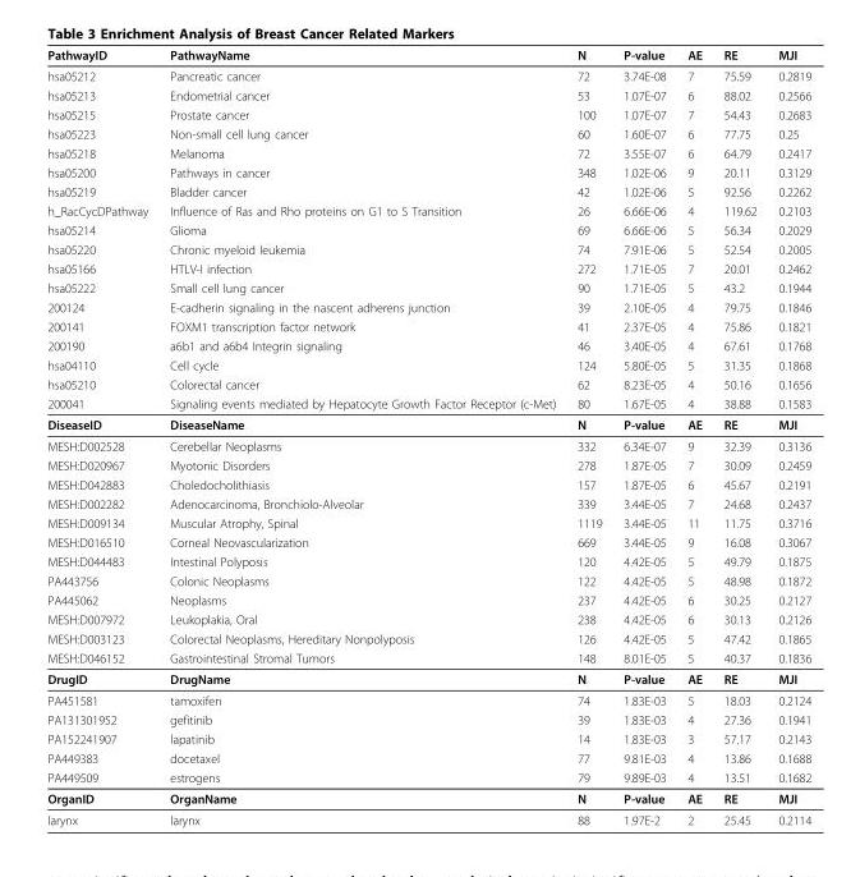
<table><thead><tr><td>PathwayID</td><td>PathwayName</td><td>N</td><td>P-value</td><td>AE</td><td>RE</td><td>MJI</td></tr></thead><tbody><tr><td>hsa05212</td><td>Pancreatic cancer</td><td>72</td><td>3.74E-08</td><td>7</td><td>75.59</td><td>0.2819</td></tr><tr><td>hsa05213</td><td>Endometrial cancer</td><td>53</td><td>1.07E-07</td><td>6</td><td>88.02</td><td>0.2566</td></tr><tr><td>hsa05215</td><td>Prostate cancer</td><td>100</td><td>1.07E-07</td><td>7</td><td>54.43</td><td>0.2683</td></tr><tr><td>hsa05223</td><td>Non-small cell lung cancer</td><td>60</td><td>1.60E-07</td><td>6</td><td>77.75</td><td>0.25</td></tr><tr><td>hsa05218</td><td>Melanoma</td><td>72</td><td>3.55E-07</td><td>6</td><td>64.79</td><td>0.2417</td></tr><tr><td>hsa05200</td><td>Pathways in cancer</td><td>348</td><td>1.02E-06</td><td>9</td><td>20.11</td><td>0.3129</td></tr><tr><td>hsa05219</td><td>Bladder cancer</td><td>42</td><td>1.02E-06</td><td>5</td><td>92.56</td><td>0.2262</td></tr><tr><td>h_RacCycDPathway</td><td>Influence of Ras and Rho proteins on G1 to S Transition</td><td>26</td><td>6.66E-06</td><td>4</td><td>119.62</td><td>0.2103</td></tr><tr><td>hsa05214</td><td>Glioma</td><td>69</td><td>6.66E-06</td><td>5</td><td>56.34</td><td>0.2029</td></tr><tr><td>hsa05220</td><td>Chronic myeloid leukemia</td><td>74</td><td>7.91E-06</td><td>5</td><td>52.54</td><td>0.2005</td></tr><tr><td>hsa05166</td><td>HTLV-I infection</td><td>272</td><td>1.71E-05</td><td>7</td><td>20.01</td><td>0.2462</td></tr><tr><td>hsa05222</td><td>Small cell lung cancer</td><td>90</td><td>1.71E-05</td><td>5</td><td>43.2</td><td>0.1944</td></tr><tr><td>200124</td><td>E-cadherin signaling in the nascent adherens junction</td><td>39</td><td>2.10E-05</td><td>4</td><td>79.75</td><td>0.1846</td></tr><tr><td>200141</td><td>FOXM1 transcription factor network</td><td>41</td><td>2.37E-05</td><td>4</td><td>75.86</td><td>0.1821</td></tr><tr><td>200190</td><td>a6b1 and a6b4 Integrin signaling</td><td>46</td><td>3.40E-05</td><td>4</td><td>67.61</td><td>0.1768</td></tr><tr><td>hsa04110</td><td>Cell cycle</td><td>124</td><td>5.80E-05</td><td>5</td><td>31.35</td><td>0.1868</td></tr><tr><td>hsa05210</td><td>Colorectal cancer</td><td>62</td><td>8.23E-05</td><td>4</td><td>50.16</td><td>0.1656</td></tr><tr><td>200041</td><td>Signaling events mediated by Hepatocyte Growth Factor Receptor (c-Met)</td><td>80</td><td>1.67E-05</td><td>4</td><td>38.88</td><td>0.1583</td></tr><tr><td>DiseaseID</td><td>DiseaseName</td><td>N</td><td>P-value</td><td>AE</td><td>RE</td><td>MJI</td></tr><tr><td>MESH:D002528</td><td>Cerebellar Neoplasms</td><td>332</td><td>6.34E-07</td><td>9</td><td>32.39</td><td>0.3136</td></tr><tr><td>MESH:D020967</td><td>Myotonic Disorders</td><td>278</td><td>1.87E-05</td><td>7</td><td>30.09</td><td>0.2459</td></tr><tr><td>MESH:D042883</td><td>Choledocholithiasis</td><td>157</td><td>1.87E-05</td><td>6</td><td>45.67</td><td>0.2191</td></tr><tr><td>MESH:D002282</td><td>Adenocarcinoma, Bronchiolo-Alveolar</td><td>339</td><td>3.44E-05</td><td>7</td><td>24.68</td><td>0.2437</td></tr><tr><td>MESH:D009134</td><td>Muscular Atrophy, Spinal</td><td>1119</td><td>3.44E-05</td><td>11</td><td>11.75</td><td>0.3716</td></tr><tr><td>MESH:D016510</td><td>Corneal Neovascularization</td><td>669</td><td>3.44E-05</td><td>9</td><td>16.08</td><td>0.3067</td></tr><tr><td>MESH:D044483</td><td>Intestinal Polyposis</td><td>120</td><td>4.42E-05</td><td>5</td><td>49.79</td><td>0.1875</td></tr><tr><td>PA443756</td><td>Colonic Neoplasms</td><td>122</td><td>4.42E-05</td><td>5</td><td>48.98</td><td>0.1872</td></tr><tr><td>PA445062</td><td>Neoplasms</td><td>237</td><td>4.42E-05</td><td>6</td><td>30.25</td><td>0.2127</td></tr><tr><td>MESH:D007972</td><td>Leukoplakia, Oral</td><td>238</td><td>4.42E-05</td><td>6</td><td>30.13</td><td>0.2126</td></tr><tr><td>MESH:D003123</td><td>Colorectal Neoplasms, Hereditary Nonpolyposis</td><td>126</td><td>4.42E-05</td><td>5</td><td>47.42</td><td>0.1865</td></tr><tr><td>MESH:D046152</td><td>Gastrointestinal Stromal Tumors</td><td>148</td><td>8.01E-05</td><td>5</td><td>40.37</td><td>0.1836</td></tr><tr><td>DrugID</td><td>DrugName</td><td>N</td><td>P-value</td><td>AE</td><td>RE</td><td>MJI</td></tr><tr><td>PA451581</td><td>tamoxifen</td><td>74</td><td>1.83E-03</td><td>5</td><td>18.03</td><td>0.2124</td></tr><tr><td>PA131301952</td><td>gefitinib</td><td>39</td><td>1.83E-03</td><td>4</td><td>27.36</td><td>0.1941</td></tr><tr><td>PA152241907</td><td>lapatinib</td><td>14</td><td>1.83E-03</td><td>3</td><td>57.17</td><td>0.2143</td></tr><tr><td>PA449383</td><td>docetaxel</td><td>77</td><td>9.81E-03</td><td>4</td><td>13.86</td><td>0.1688</td></tr><tr><td>PA449509</td><td>estrogens</td><td>79</td><td>9.89E-03</td><td>4</td><td>13.51</td><td>0.1682</td></tr><tr><td>OrganID</td><td>OrganName</td><td>N</td><td>P-value</td><td>AE</td><td>RE</td><td>MJI</td></tr><tr><td>larynx</td><td>larynx</td><td>88</td><td>1.97E-2</td><td>2</td><td>25.45</td><td>0.2114</td></tr></tbody></table>